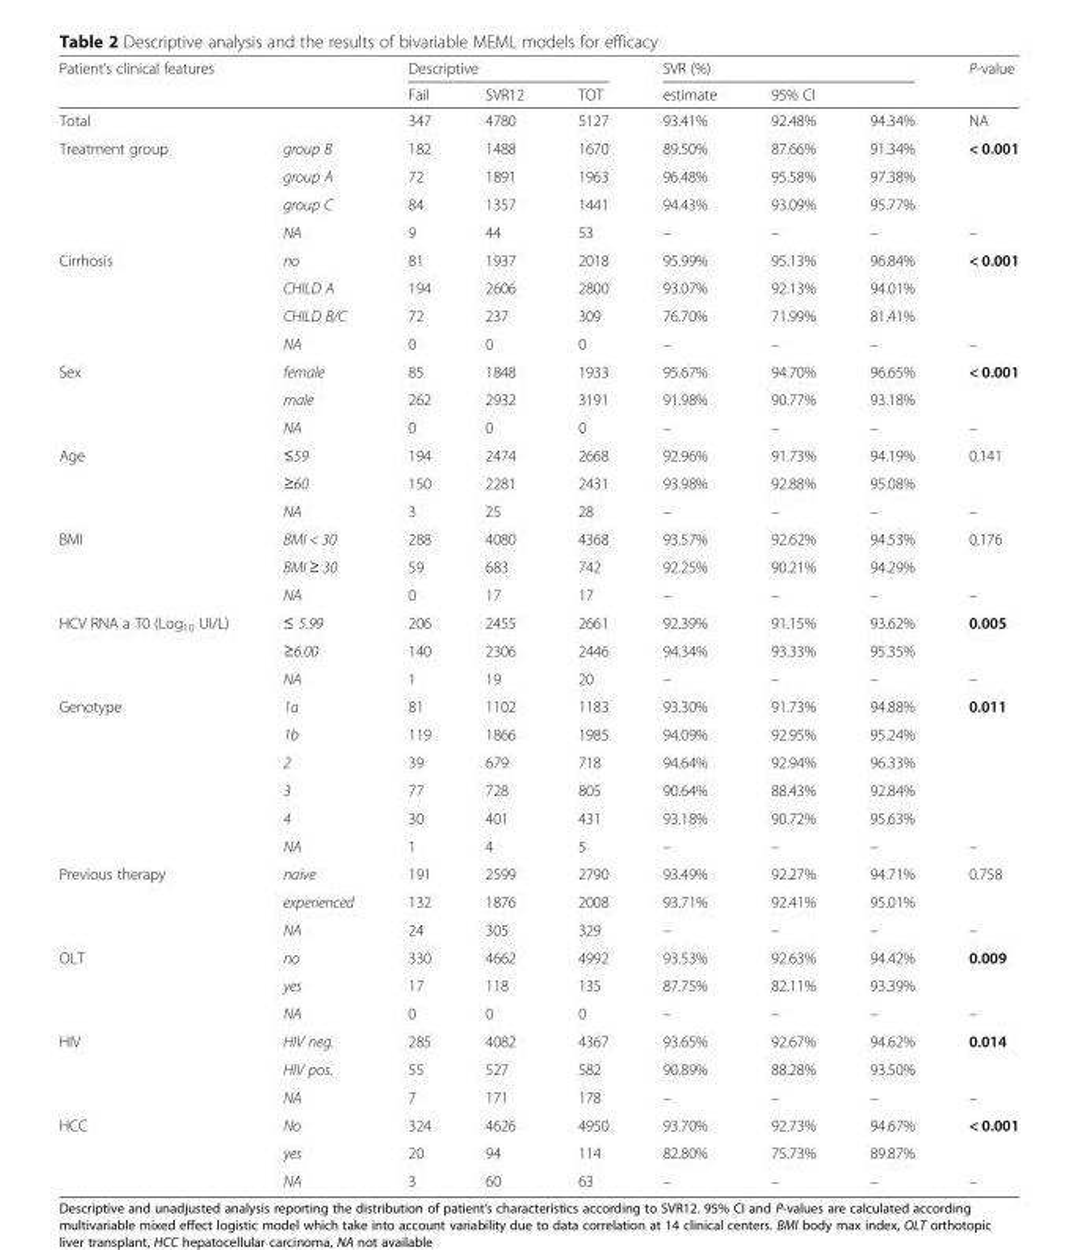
<table><thead><tr><td rowspan="2" colspan="2">Patient’s clinical features</td><td colspan="3">Descriptive</td><td colspan="3">SVR (%)</td><td rowspan="3">P-value NA</td></tr><tr><td rowspan="2">Fail 347</td><td rowspan="2">SVR12 4780</td><td rowspan="2">TOT 5127</td><td rowspan="2">estimate 93.41%</td><td colspan="2">95% CI</td></tr><tr><td>Total</td><td></td><td>92.48%</td><td>94.34%</td></tr></thead><tbody><tr><td rowspan="4">Treatment group</td><td>group B</td><td>182</td><td>1488</td><td>1670</td><td>89.50%</td><td>87.66%</td><td>91.34%</td><td rowspan="3">&lt; 0.001</td></tr><tr><td>group A</td><td>72</td><td>1891</td><td>1963</td><td>96.48%</td><td>95.58%</td><td>97.38%</td></tr><tr><td>group C</td><td>84</td><td>1357</td><td>1441</td><td>94.43%</td><td>93.09%</td><td>95.77%</td></tr><tr><td>NA</td><td>9</td><td>44</td><td>53</td><td>–</td><td>–</td><td>–</td><td>–</td></tr><tr><td rowspan="4">Cirrhosis</td><td>no</td><td>81</td><td>1937</td><td>2018</td><td>95.99%</td><td>95.13%</td><td>96.84%</td><td rowspan="3">&lt; 0.001</td></tr><tr><td>CHILD A</td><td>194</td><td>2606</td><td>2800</td><td>93.07%</td><td>92.13%</td><td>94.01%</td></tr><tr><td>CHILD B/C</td><td>72</td><td>237</td><td>309</td><td>76.70%</td><td>71.99%</td><td>81.41%</td></tr><tr><td>NA</td><td>0</td><td>0</td><td>0</td><td>–</td><td>–</td><td>–</td><td>–</td></tr><tr><td rowspan="3">Sex</td><td>female</td><td>85</td><td>1848</td><td>1933</td><td>95.67%</td><td>94.70%</td><td>96.65%</td><td rowspan="2">&lt; 0.001</td></tr><tr><td>male</td><td>262</td><td>2932</td><td>3191</td><td>91.98%</td><td>90.77%</td><td>93.18%</td></tr><tr><td>NA</td><td>0</td><td>0</td><td>0</td><td>–</td><td>–</td><td>–</td><td>–</td></tr><tr><td rowspan="3">Age</td><td>≤59</td><td>194</td><td>2474</td><td>2668</td><td>92.96%</td><td>91.73%</td><td>94.19%</td><td rowspan="2">0.141</td></tr><tr><td>≥60</td><td>150</td><td>2281</td><td>2431</td><td>93.98%</td><td>92.88%</td><td>95.08%</td></tr><tr><td>NA</td><td>3</td><td>25</td><td>28</td><td>–</td><td>–</td><td>–</td><td>–</td></tr><tr><td rowspan="3">BMI</td><td>BMI &lt; 30</td><td>288</td><td>4080</td><td>4368</td><td>93.57%</td><td>92.62%</td><td>94.53%</td><td rowspan="2">0.176</td></tr><tr><td>BMI ≥ 30</td><td>59</td><td>683</td><td>742</td><td>92.25%</td><td>90.21%</td><td>94.29%</td></tr><tr><td>NA</td><td>0</td><td>17</td><td>17</td><td>–</td><td>–</td><td>–</td><td>–</td></tr><tr><td rowspan="3">HCV RNA a T0 (Log<sub>10</sub> UI/L)</td><td>≤ 5.99</td><td>206</td><td>2455</td><td>2661</td><td>92.39%</td><td>91.15%</td><td>93.62%</td><td rowspan="2">0.005</td></tr><tr><td>≥6.00</td><td>140</td><td>2306</td><td>2446</td><td>94.34%</td><td>93.33%</td><td>95.35%</td></tr><tr><td>NA</td><td>1</td><td>19</td><td>20</td><td>–</td><td>–</td><td>–</td><td>–</td></tr><tr><td rowspan="6">Genotype</td><td>1a</td><td>81</td><td>1102</td><td>1183</td><td>93.30%</td><td>91.73%</td><td>94.88%</td><td rowspan="5">0.011</td></tr><tr><td>1b</td><td>119</td><td>1866</td><td>1985</td><td>94.09%</td><td>92.95%</td><td>95.24%</td></tr><tr><td>2</td><td>39</td><td>679</td><td>718</td><td>94.64%</td><td>92.94%</td><td>96.33%</td></tr><tr><td>3</td><td>77</td><td>728</td><td>805</td><td>90.64%</td><td>88.43%</td><td>92.84%</td></tr><tr><td>4</td><td>30</td><td>401</td><td>431</td><td>93.18%</td><td>90.72%</td><td>95.63%</td></tr><tr><td>NA</td><td>1</td><td>4</td><td>5</td><td>–</td><td>–</td><td>–</td><td>–</td></tr><tr><td rowspan="3">Previous therapy</td><td>naive</td><td>191</td><td>2599</td><td>2790</td><td>93.49%</td><td>92.27%</td><td>94.71%</td><td rowspan="2">0.758</td></tr><tr><td>experienced</td><td>132</td><td>1876</td><td>2008</td><td>93.71%</td><td>92.41%</td><td>95.01%</td></tr><tr><td>NA</td><td>24</td><td>305</td><td>329</td><td>–</td><td>–</td><td>–</td><td>–</td></tr><tr><td rowspan="3">OLT</td><td>no</td><td>330</td><td>4662</td><td>4992</td><td>93.53%</td><td>92.63%</td><td>94.42%</td><td rowspan="2">0.009</td></tr><tr><td>yes</td><td>17</td><td>118</td><td>135</td><td>87.75%</td><td>82.11%</td><td>93.39%</td></tr><tr><td>NA</td><td>0</td><td>0</td><td>0</td><td>–</td><td>–</td><td>–</td><td>–</td></tr><tr><td rowspan="3">HIV</td><td>HIV neg.</td><td>285</td><td>4082</td><td>4367</td><td>93.65%</td><td>92.67%</td><td>94.62%</td><td rowspan="2">0.014</td></tr><tr><td>HIV pos.</td><td>55</td><td>527</td><td>582</td><td>90.89%</td><td>88.28%</td><td>93.50%</td></tr><tr><td>NA</td><td>7</td><td>171</td><td>178</td><td>–</td><td>–</td><td>–</td><td>–</td></tr><tr><td rowspan="3">HCC</td><td>No</td><td>324</td><td>4626</td><td>4950</td><td>93.70%</td><td>92.73%</td><td>94.67%</td><td rowspan="2">&lt; 0.001</td></tr><tr><td>yes</td><td>20</td><td>94</td><td>114</td><td>82.80%</td><td>75.73%</td><td>89.87%</td></tr><tr><td>NA</td><td>3</td><td>60</td><td>63</td><td>–</td><td>–</td><td>–</td><td>–</td></tr></tbody></table>